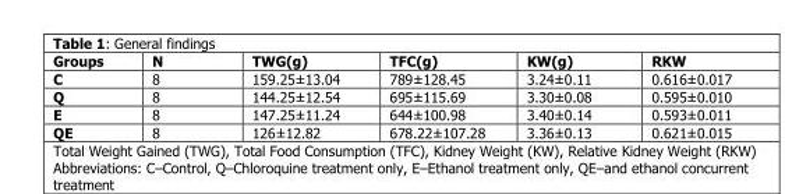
<table><thead><tr><td>Groups</td><td>N</td><td>TWG(g)</td><td>TFC(g)</td><td>KW(g)</td><td>RKW</td></tr></thead><tbody><tr><td>C</td><td>8</td><td>159.25±13.04</td><td>789±128.45</td><td>3.24±0.11</td><td>0.616±0.017</td></tr><tr><td>Q</td><td>8</td><td>144.25±12.54</td><td>695±115.69</td><td>3.30±0.08</td><td>0.595±0.010</td></tr><tr><td>E</td><td>8</td><td>147.25±11.24</td><td>644±100.98</td><td>3.40±0.14</td><td>0.593±0.011</td></tr><tr><td>QE</td><td>8</td><td>126±12.82</td><td>678.22±107.28</td><td>3.36±0.13</td><td>0.621±0.015</td></tr></tbody></table>